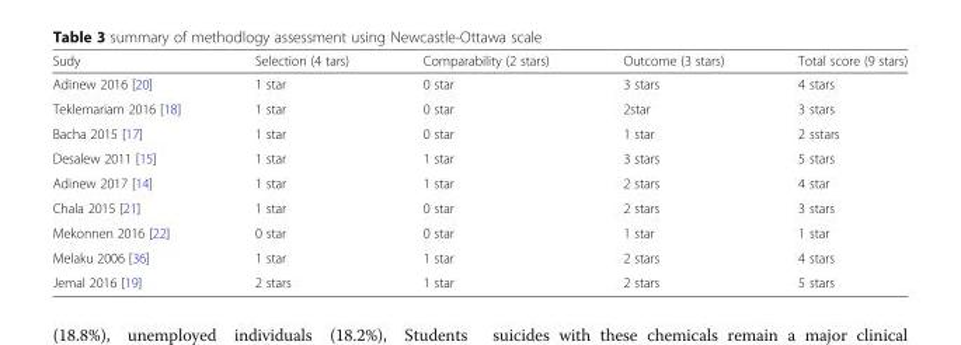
<table><thead><tr><td>Sudy</td><td>Selection (4 tars)</td><td>Comparability (2 stars)</td><td>Outcome (3 stars)</td><td>Total score (9 stars)</td></tr></thead><tbody><tr><td>Adinew 2016 [20]</td><td>1 star</td><td>0 star</td><td>3 stars</td><td>4 stars</td></tr><tr><td>Teklemariam 2016 [18]</td><td>1 star</td><td>0 star</td><td>2star</td><td>3 stars</td></tr><tr><td>Bacha 2015 [17]</td><td>1 star</td><td>0 star</td><td>1 star</td><td>2 sstars</td></tr><tr><td>Desalew 2011 [15]</td><td>1 star</td><td>1 star</td><td>3 stars</td><td>5 stars</td></tr><tr><td>Adinew 2017 [14]</td><td>1 star</td><td>1 star</td><td>2 stars</td><td>4 star</td></tr><tr><td>Chala 2015 [21]</td><td>1 star</td><td>0 star</td><td>2 stars</td><td>3 stars</td></tr><tr><td>Mekonnen 2016 [22]</td><td>0 star</td><td>0 star</td><td>1 star</td><td>1 star</td></tr><tr><td>Melaku 2006 [36]</td><td>1 star</td><td>1 star</td><td>2 stars</td><td>4 stars</td></tr><tr><td>Jemal 2016 [19]</td><td>2 stars</td><td>1 star</td><td>2 stars</td><td>5 stars</td></tr></tbody></table>